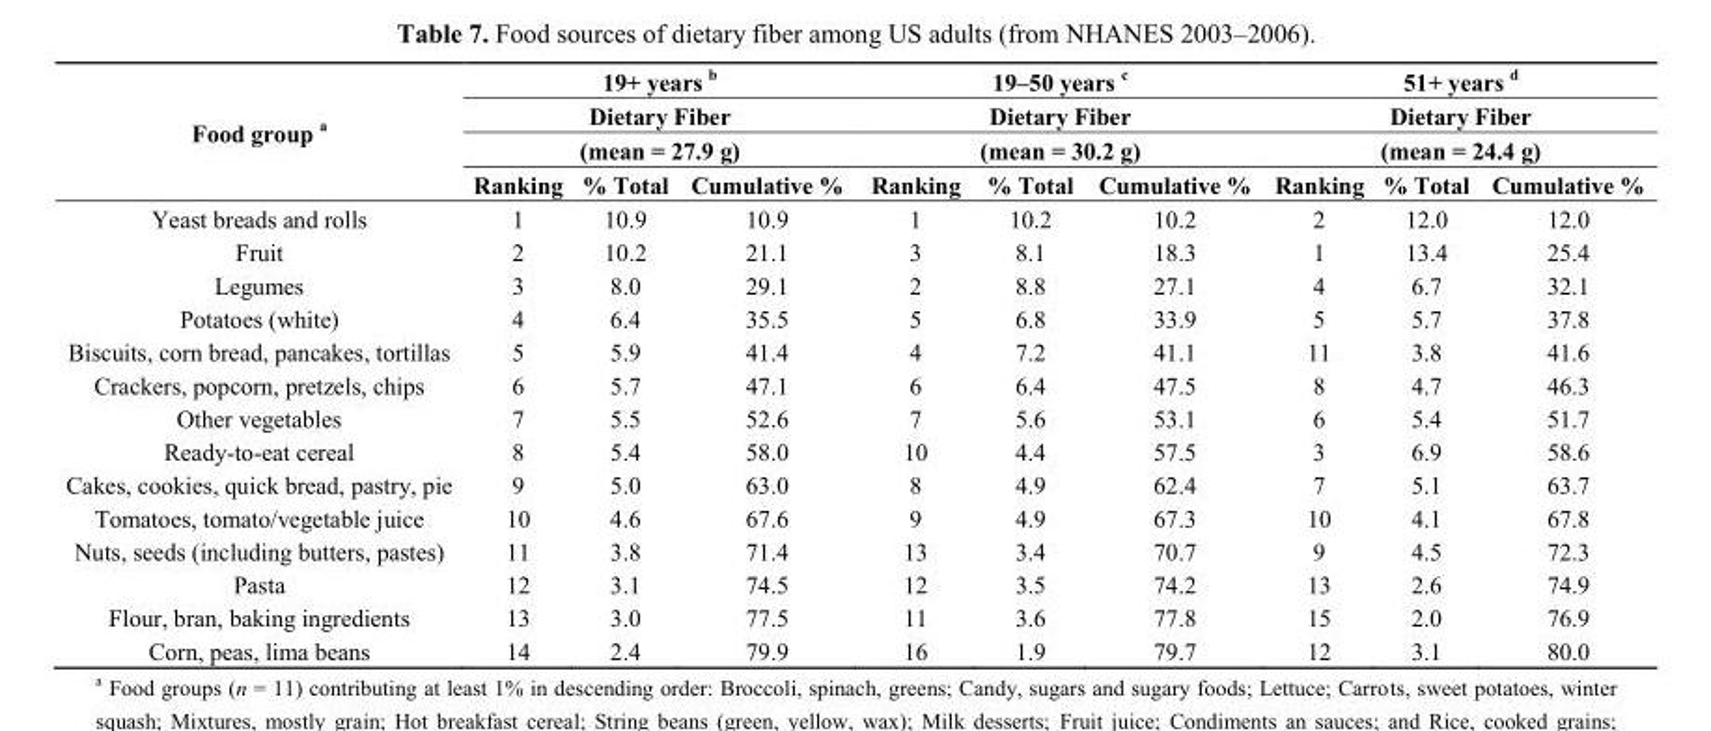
<table><thead><tr><td rowspan="4">Food group <sup>a</sup></td><td rowspan="3" colspan="3">19+ years <sup>b</sup> Dietary Fiber (mean = 27.9 g)</td><td rowspan="3" colspan="3">19–50 years <sup>c</sup> Dietary Fiber (mean = 30.2 g)</td><td rowspan="3" colspan="3">51+ years <sup>d</sup> Dietary Fiber (mean = 24.4 g)</td></tr><tr></tr><tr></tr><tr><td>Ranking</td><td>% Total</td><td>Cumulative %</td><td>Ranking</td><td>% Total</td><td>Cumulative %</td><td>Ranking</td><td>% Total</td><td>Cumulative %</td></tr></thead><tbody><tr><td>Yeast breads and rolls</td><td>1</td><td>10.9</td><td>10.9</td><td>1</td><td>10.2</td><td>10.2</td><td>2</td><td>12.0</td><td>12.0</td></tr><tr><td>Fruit</td><td>2</td><td>10.2</td><td>21.1</td><td>3</td><td>8.1</td><td>18.3</td><td>1</td><td>13.4</td><td>25.4</td></tr><tr><td>Legumes</td><td>3</td><td>8.0</td><td>29.1</td><td>2</td><td>8.8</td><td>27.1</td><td>4</td><td>6.7</td><td>32.1</td></tr><tr><td>Potatoes (white)</td><td>4</td><td>6.4</td><td>35.5</td><td>5</td><td>6.8</td><td>33.9</td><td>5</td><td>5.7</td><td>37.8</td></tr><tr><td>Biscuits, corn bread, pancakes, tortillas</td><td>5</td><td>5.9</td><td>41.4</td><td>4</td><td>7.2</td><td>41.1</td><td>11</td><td>3.8</td><td>41.6</td></tr><tr><td>Crackers, popcorn, pretzels, chips</td><td>6</td><td>5.7</td><td>47.1</td><td>6</td><td>6.4</td><td>47.5</td><td>8</td><td>4.7</td><td>46.3</td></tr><tr><td>Other vegetables</td><td>7</td><td>5.5</td><td>52.6</td><td>7</td><td>5.6</td><td>53.1</td><td>6</td><td>5.4</td><td>51.7</td></tr><tr><td>Ready-to-eat cereal</td><td>8</td><td>5.4</td><td>58.0</td><td>10</td><td>4.4</td><td>57.5</td><td>3</td><td>6.9</td><td>58.6</td></tr><tr><td>Cakes, cookies, quick bread, pastry, pie</td><td>9</td><td>5.0</td><td>63.0</td><td>8</td><td>4.9</td><td>62.4</td><td>7</td><td>5.1</td><td>63.7</td></tr><tr><td>Tomatoes, tomato/vegetable juice</td><td>10</td><td>4.6</td><td>67.6</td><td>9</td><td>4.9</td><td>67.3</td><td>10</td><td>4.1</td><td>67.8</td></tr><tr><td>Nuts, seeds (including butters, pastes)</td><td>11</td><td>3.8</td><td>71.4</td><td>13</td><td>3.4</td><td>70.7</td><td>9</td><td>4.5</td><td>72.3</td></tr><tr><td>Pasta</td><td>12</td><td>3.1</td><td>74.5</td><td>12</td><td>3.5</td><td>74.2</td><td>13</td><td>2.6</td><td>74.9</td></tr><tr><td>Flour, bran, baking ingredients</td><td>13</td><td>3.0</td><td>77.5</td><td>11</td><td>3.6</td><td>77.8</td><td>15</td><td>2.0</td><td>76.9</td></tr><tr><td>Corn, peas, lima beans</td><td>14</td><td>2.4</td><td>79.9</td><td>16</td><td>1.9</td><td>79.7</td><td>12</td><td>3.1</td><td>80.0</td></tr></tbody></table>